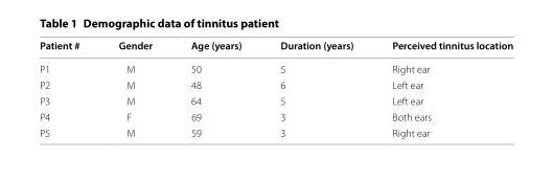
<table><thead><tr><td>Patient #</td><td>Gender</td><td>Age (years)</td><td>Duration (years)</td><td>Perceived tinnitus location</td></tr></thead><tbody><tr><td>P1</td><td>M</td><td>50</td><td>5</td><td>Right ear</td></tr><tr><td>P2</td><td>M</td><td>48</td><td>6</td><td>Left ear</td></tr><tr><td>P3</td><td>M</td><td>64</td><td>5</td><td>Left ear</td></tr><tr><td>P4</td><td>F</td><td>69</td><td>3</td><td>Both ears</td></tr><tr><td>P5</td><td>M</td><td>59</td><td>3</td><td>Right ear</td></tr></tbody></table>